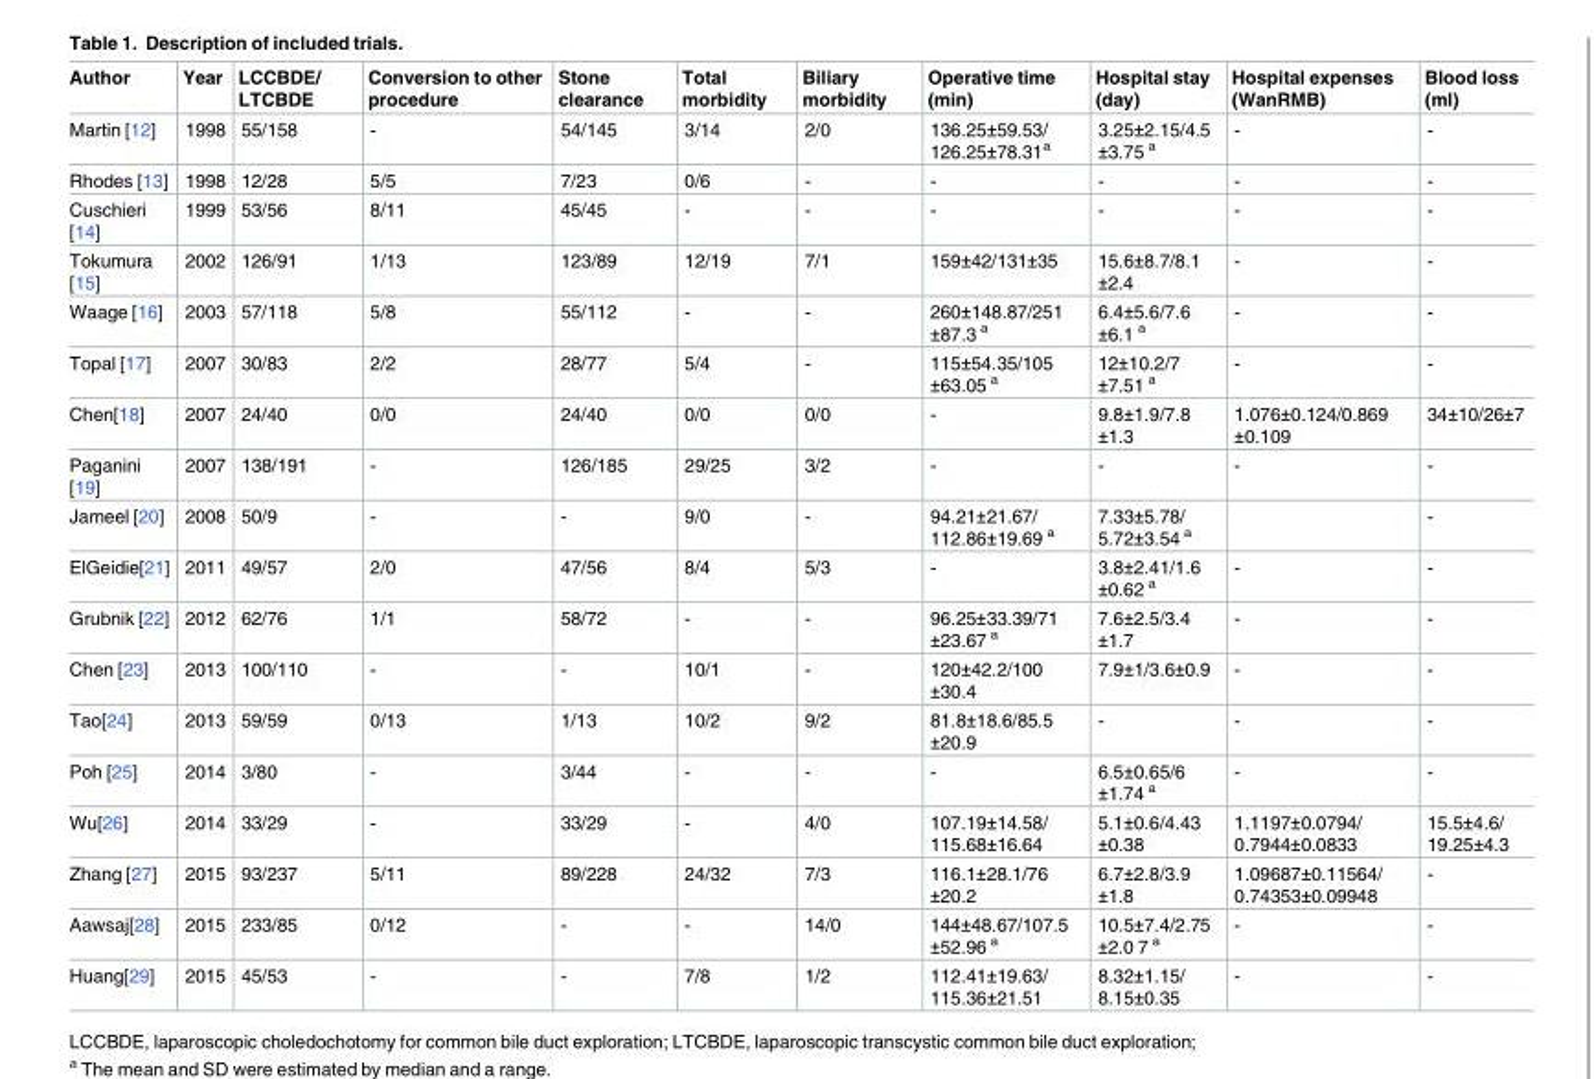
<table><thead><tr><td>Author</td><td>Year</td><td>LCCBDE/ LTCBDE</td><td>Conversion to other procedure</td><td>Stone clearance</td><td>Total morbidity</td><td>Biliary morbidity</td><td>Operative time (min)</td><td>Hospital stay (day)</td><td>Hospital expenses (WanRMB)</td><td>Blood loss (ml)</td></tr></thead><tbody><tr><td>Martin [12]</td><td>1998</td><td>55/158</td><td>-</td><td>54/145</td><td>3/14</td><td>2/0</td><td>136.25±59.53/ 126.25±78.31<sup>a</sup></td><td>3.25±2.15/4.5 ±3.75 <sup>a</sup></td><td>-</td><td>-</td></tr><tr><td>Rhodes [13]</td><td>1998</td><td>12/28</td><td>5/5</td><td>7/23</td><td>0/6</td><td>-</td><td>-</td><td>-</td><td>-</td><td>-</td></tr><tr><td>Cuschieri [14]</td><td>1999</td><td>53/56</td><td>8/11</td><td>45/45</td><td>-</td><td>-</td><td>-</td><td>-</td><td>-</td><td>-</td></tr><tr><td>Tokumura [15]</td><td>2002</td><td>126/91</td><td>1/13</td><td>123/89</td><td>12/19</td><td>7/1</td><td>159±42/131±35</td><td>15.6±8.7/8.1 ±2.4</td><td>-</td><td>-</td></tr><tr><td>Waage [16]</td><td>2003</td><td>57/118</td><td>5/8</td><td>55/112</td><td>-</td><td>-</td><td>260±148.87/251 ±87.3 <sup>a</sup></td><td>6.4±5.6/7.6 ±6.1 <sup>a</sup></td><td>-</td><td>-</td></tr><tr><td>Topal [17]</td><td>2007</td><td>30/83</td><td>2/2</td><td>28/77</td><td>5/4</td><td>-</td><td>115±54.35/105 ±63.05 <sup>a</sup></td><td>12±10.2/7 ±7.51 <sup>a</sup></td><td>-</td><td>-</td></tr><tr><td>Chen[18]</td><td>2007</td><td>24/40</td><td>0/0</td><td>24/40</td><td>0/0</td><td>0/0</td><td>-</td><td>9.8±1.9/7.8 ±1.3</td><td>1.076±0.124/0.869 ±0.109</td><td>34±10/26±7</td></tr><tr><td>Paganini [19]</td><td>2007</td><td>138/191</td><td>-</td><td>126/185</td><td>29/25</td><td>3/2</td><td>-</td><td>-</td><td>-</td><td>-</td></tr><tr><td>Jameel [20]</td><td>2008</td><td>50/9</td><td>-</td><td>-</td><td>9/0</td><td>-</td><td>94.21±21.67/ 112.86±19.69 <sup>a</sup></td><td>7.33±5.78/ 5.72±3.54 <sup>a</sup></td><td></td><td>-</td></tr><tr><td>ElGeidie[21]</td><td>2011</td><td>49/57</td><td>2/0</td><td>47/56</td><td>8/4</td><td>5/3</td><td>-</td><td>3.8±2.41/1.6 ±0.62 <sup>a</sup></td><td>-</td><td>-</td></tr><tr><td>Grubnik [22]</td><td>2012</td><td>62/76</td><td>1/1</td><td>58/72</td><td>-</td><td>-</td><td>96.25±33.39/71 ±23.67 <sup>a</sup></td><td>7.6±2.5/3.4 ±1.7</td><td>-</td><td>-</td></tr><tr><td>Chen [23]</td><td>2013</td><td>100/110</td><td>-</td><td>-</td><td>10/1</td><td>-</td><td>120±42.2/100 ±30.4</td><td>7.9±1/3.6±0.9</td><td>-</td><td>-</td></tr><tr><td>Tao[24]</td><td>2013</td><td>59/59</td><td>0/13</td><td>1/13</td><td>10/2</td><td>9/2</td><td>81.8±18.6/85.5 ±20.9</td><td>-</td><td>-</td><td>-</td></tr><tr><td>Poh [25]</td><td>2014</td><td>3/80</td><td>-</td><td>3/44</td><td>-</td><td>-</td><td>-</td><td>6.5±0.65/6 ±1.74 <sup>a</sup></td><td>-</td><td>-</td></tr><tr><td>Wu[26]</td><td>2014</td><td>33/29</td><td>-</td><td>33/29</td><td>-</td><td>4/0</td><td>107.19±14.58/ 115.68±16.64</td><td>5.1±0.6/4.43 ±0.38</td><td>1.1197±0.0794/ 0.7944±0.0833</td><td>15.5±4.6/ 19.25±4.3</td></tr><tr><td>Zhang [27]</td><td>2015</td><td>93/237</td><td>5/11</td><td>89/228</td><td>24/32</td><td>7/3</td><td>116.1±28.1/76 ±20.2</td><td>6.7±2.8/3.9 ±1.8</td><td>1.09687±0.11564/ 0.74353±0.09948</td><td>-</td></tr><tr><td>Aawsaj[28]</td><td>2015</td><td>233/85</td><td>0/12</td><td>-</td><td>-</td><td>14/0</td><td>144±48.67/107.5 ±52.96 <sup>a</sup></td><td>10.5±7.4/2.75 ±2.0 7 <sup>a</sup></td><td>-</td><td>-</td></tr><tr><td>Huang[29]</td><td>2015</td><td>45/53</td><td>-</td><td>-</td><td>7/8</td><td>1/2</td><td>112.41±19.63/ 115.36±21.51</td><td>8.32±1.15/ 8.15±0.35</td><td>-</td><td>-</td></tr></tbody></table>